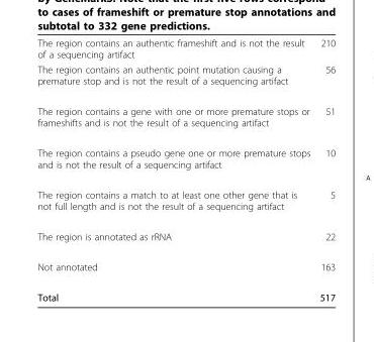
<table><thead><tr><td>The region contains an authentic frameshift and is not the result of a sequencing artifact</td><td>210</td></tr></thead><tbody><tr><td>The region contains an authentic point mutation causing a premature stop and is not the result of a sequencing artifact</td><td>56</td></tr><tr><td>The region contains a gene with one or more premature stops or frameshifts and is not the result of a sequencing artifact</td><td>51</td></tr><tr><td>The region contains a pseudo gene one or more premature stops and is not the result of a sequencing artifact</td><td>10</td></tr><tr><td>The region contains a match to at least one other gene that is not full length and is not the result of a sequencing artifact</td><td>5</td></tr><tr><td>The region is annotated as rRNA</td><td>22</td></tr><tr><td>Not annotated</td><td>163</td></tr><tr><td>Total</td><td>517</td></tr></tbody></table>